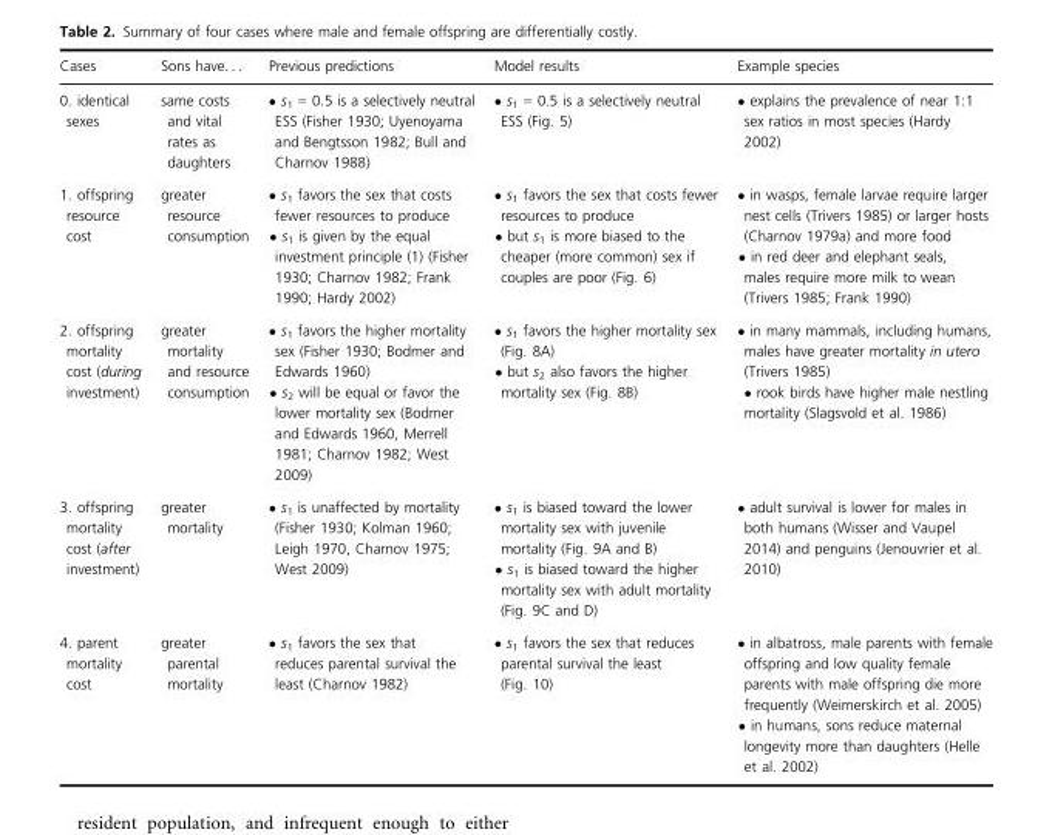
<table><thead><tr><td>Cases</td><td>Sons have. . .</td><td>Previous predictions</td><td>Model results</td><td>Example species</td></tr></thead><tbody><tr><td>0. identical sexes</td><td>same costs and vital rates as daughters</td><td>• s<sub>1</sub> = 0.5 is a selectively neutral ESS (Fisher 1930; Uyenoyama and Bengtsson 1982; Bull and Charnov 1988)</td><td>• s<sub>1</sub> = 0.5 is a selectively neutral ESS (Fig. 5)</td><td>• explains the prevalence of near 1:1 sex ratios in most species (Hardy 2002)</td></tr><tr><td>1. offspring resource cost</td><td>greater resource consumption</td><td>• s<sub>1</sub> favors the sex that costs fewer resources to produce • s<sub>1</sub> is given by the equal investment principle (1) (Fisher 1930; Charnov 1982; Frank 1990; Hardy 2002)</td><td>• s<sub>1</sub> favors the sex that costs fewer resources to produce • but s<sub>1</sub> is more biased to the cheaper (more common) sex if couples are poor (Fig. 6)</td><td>• in wasps, female larvae require larger nest cells (Trivers 1985) or larger hosts (Charnov 1979a) and more food • in red deer and elephant seals, males require more milk to wean (Trivers 1985; Frank 1990)</td></tr><tr><td>2. offspring mortality cost (during investment)</td><td>greater mortality and resource consumption</td><td>• s<sub>1</sub> favors the higher mortality sex (Fisher 1930; Bodmer and Edwards 1960) • s<sub>2</sub> will be equal or favor the lower mortality sex (Bodmer and Edwards 1960, Merrell 1981; Charnov 1982; West 2009)</td><td>• s<sub>1</sub> favors the higher mortality sex (Fig. 8A) • but s<sub>2</sub> also favors the higher mortality sex (Fig. 8B)</td><td>• in many mammals, including humans, males have greater mortality in utero (Trivers 1985) • rook birds have higher male nestling mortality (Slagsvold et al. 1986)</td></tr><tr><td>3. offspring mortality cost (after investment)</td><td>greater mortality</td><td>• s<sub>1</sub> is unaffected by mortality (Fisher 1930; Kolman 1960; Leigh 1970, Charnov 1975; West 2009)</td><td>• s<sub>1</sub> is biased toward the lower mortality sex with juvenile mortality (Fig. 9A and B) • s<sub>1</sub> is biased toward the higher mortality sex with adult mortality (Fig. 9C and D)</td><td>• adult survival is lower for males in both humans (Wisser and Vaupel 2014) and penguins (Jenouvrier et al. 2010)</td></tr><tr><td>4. parent mortality cost</td><td>greater parental mortality</td><td>• s<sub>1</sub> favors the sex that reduces parental survival the least (Charnov 1982)</td><td>• s<sub>1</sub> favors the sex that reduces parental survival the least (Fig. 10)</td><td>• in albatross, male parents with female offspring and low quality female parents with male offspring die more frequently (Weimerskirch et al. 2005) • in humans, sons reduce maternal longevity more than daughters (Helle et al. 2002)</td></tr></tbody></table>